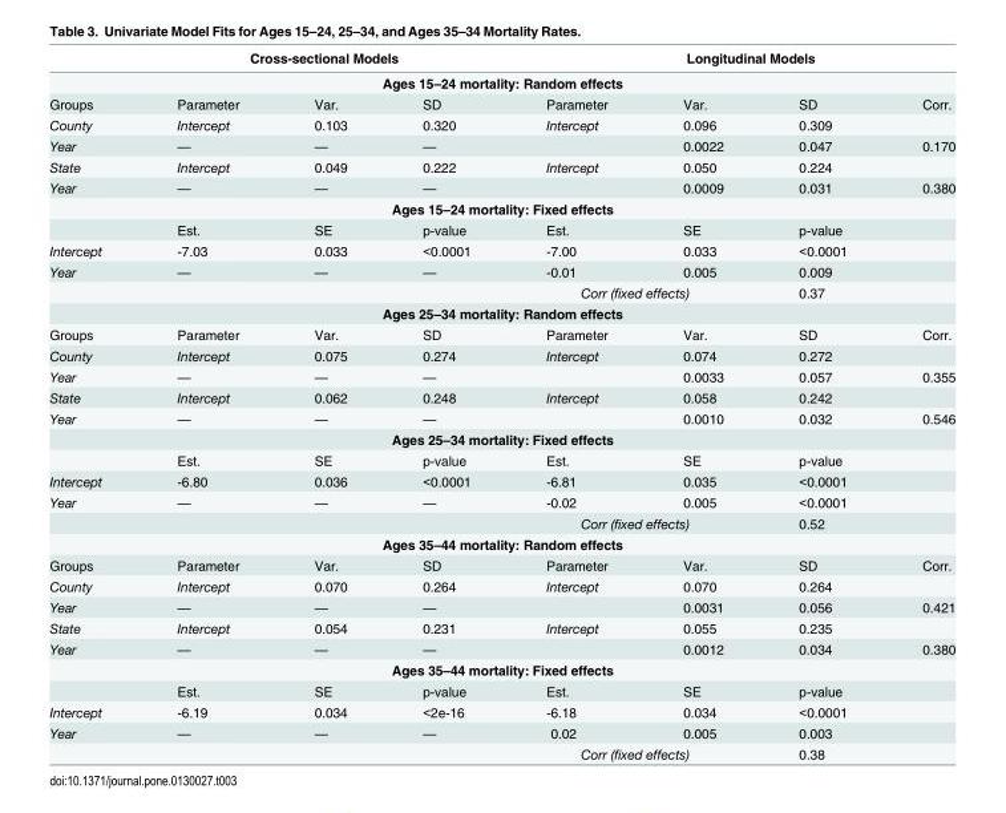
<table><thead><tr><td></td><td colspan="3">Cross-sectional Models</td><td colspan="4">Longitudinal Models</td></tr><tr><td colspan="8">Ages 15–24 mortality: Random effects</td></tr><tr><td>Groups</td><td>Parameter</td><td>Var.</td><td>SD</td><td>Parameter</td><td>Var.</td><td>SD</td><td>Corr.</td></tr></thead><tbody><tr><td>County</td><td>Intercept</td><td>0.103</td><td>0.320</td><td>Intercept</td><td>0.096</td><td>0.309</td><td></td></tr><tr><td>Year</td><td>—</td><td>—</td><td>—</td><td></td><td>0.0022</td><td>0.047</td><td>0.170</td></tr><tr><td>State</td><td>Intercept</td><td>0.049</td><td>0.222</td><td>Intercept</td><td>0.050</td><td>0.224</td><td></td></tr><tr><td>Year</td><td>—</td><td>—</td><td>—</td><td></td><td>0.0009</td><td>0.031</td><td>0.380</td></tr><tr><td colspan="8">Ages 15–24 mortality: Fixed effects</td></tr><tr><td></td><td>Est.</td><td>SE</td><td>p-value</td><td>Est.</td><td>SE</td><td>p-value</td><td></td></tr><tr><td>Intercept</td><td>-7.03</td><td>0.033</td><td>&lt;0.0001</td><td>-7.00</td><td>0.033</td><td>&lt;0.0001</td><td></td></tr><tr><td rowspan="2">Year</td><td>—</td><td>—</td><td>—</td><td>-0.01</td><td>0.005</td><td>0.009</td><td></td></tr><tr><td></td><td></td><td></td><td colspan="2">Corr (fixed effects)</td><td>0.37</td><td></td></tr><tr><td colspan="8">Ages 25–34 mortality: Random effects</td></tr><tr><td>Groups</td><td>Parameter</td><td>Var.</td><td>SD</td><td>Parameter</td><td>Var.</td><td>SD</td><td>Corr.</td></tr><tr><td>County</td><td>Intercept</td><td>0.075</td><td>0.274</td><td>Intercept</td><td>0.074</td><td>0.272</td><td></td></tr><tr><td>Year</td><td>—</td><td>—</td><td>—</td><td></td><td>0.0033</td><td>0.057</td><td>0.355</td></tr><tr><td>State</td><td>Intercept</td><td>0.062</td><td>0.248</td><td>Intercept</td><td>0.058</td><td>0.242</td><td></td></tr><tr><td>Year</td><td>—</td><td>—</td><td>—</td><td></td><td>0.0010</td><td>0.032</td><td>0.546</td></tr><tr><td colspan="8">Ages 25–34 mortality: Fixed effects</td></tr><tr><td></td><td>Est.</td><td>SE</td><td>p-value</td><td>Est.</td><td>SE</td><td>p-value</td><td></td></tr><tr><td>Intercept</td><td>-6.80</td><td>0.036</td><td>&lt;0.0001</td><td>-6.81</td><td>0.035</td><td>&lt;0.0001</td><td></td></tr><tr><td rowspan="2">Year</td><td>—</td><td>—</td><td>—</td><td>-0.02</td><td>0.005</td><td>&lt;0.0001</td><td></td></tr><tr><td></td><td></td><td></td><td colspan="2">Corr (fixed effects)</td><td>0.52</td><td></td></tr><tr><td colspan="8">Ages 35–44 mortality: Random effects</td></tr><tr><td>Groups</td><td>Parameter</td><td>Var.</td><td>SD</td><td>Parameter</td><td>Var.</td><td>SD</td><td>Corr.</td></tr><tr><td>County</td><td>Intercept</td><td>0.070</td><td>0.264</td><td>Intercept</td><td>0.070</td><td>0.264</td><td></td></tr><tr><td>Year</td><td>—</td><td>—</td><td>—</td><td></td><td>0.0031</td><td>0.056</td><td>0.421</td></tr><tr><td>State</td><td>Intercept</td><td>0.054</td><td>0.231</td><td>Intercept</td><td>0.055</td><td>0.235</td><td></td></tr><tr><td>Year</td><td>—</td><td>—</td><td>—</td><td></td><td>0.0012</td><td>0.034</td><td>0.380</td></tr><tr><td colspan="8">Ages 35–44 mortality: Fixed effects</td></tr><tr><td></td><td>Est.</td><td>SE</td><td>p-value</td><td>Est.</td><td>SE</td><td>p-value</td><td></td></tr><tr><td>Intercept</td><td>-6.19</td><td>0.034</td><td>&lt;2e-16</td><td>-6.18</td><td>0.034</td><td>&lt;0.0001</td><td></td></tr><tr><td rowspan="2">Year</td><td>—</td><td>—</td><td>—</td><td>0.02</td><td>0.005</td><td>0.003</td><td></td></tr><tr><td></td><td></td><td></td><td colspan="2">Corr (fixed effects)</td><td>0.38</td><td></td></tr></tbody></table>